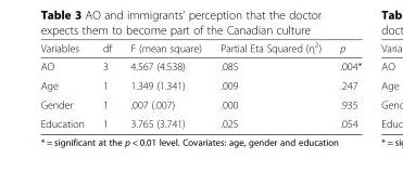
<table><thead><tr><td>Variables</td><td>df</td><td>F (mean square)</td><td>Partial Eta Squared (η<sup>2</sup>)</td><td>p</td></tr></thead><tbody><tr><td>AO</td><td>3</td><td>4.567 (4.538)</td><td>.085</td><td>.004*</td></tr><tr><td>Age</td><td>1</td><td>1.349 (1.341)</td><td>.009</td><td>.247</td></tr><tr><td>Gender</td><td>1</td><td>.007 (.007)</td><td>.000</td><td>.935</td></tr><tr><td>Education</td><td>1</td><td>3.765 (3.741)</td><td>.025</td><td>.054</td></tr></tbody></table>